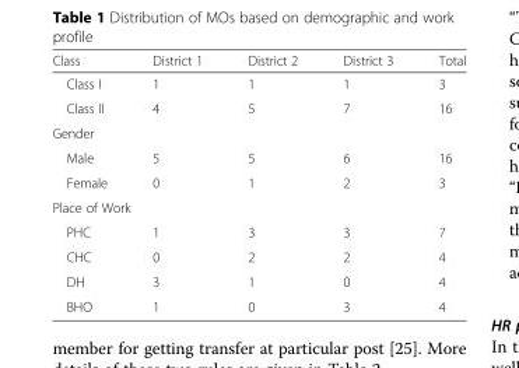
<table><thead><tr><td>Class</td><td>District 1</td><td>District 2</td><td>District 3</td><td>Total</td></tr></thead><tbody><tr><td>Class I</td><td>1</td><td>1</td><td>1</td><td>3</td></tr><tr><td>Class II</td><td>4</td><td>5</td><td>7</td><td>16</td></tr><tr><td colspan="5">Gender</td></tr><tr><td>Male</td><td>5</td><td>5</td><td>6</td><td>16</td></tr><tr><td>Female</td><td>0</td><td>1</td><td>2</td><td>3</td></tr><tr><td colspan="5">Place of Work</td></tr><tr><td>PHC</td><td>1</td><td>3</td><td>3</td><td>7</td></tr><tr><td>CHC</td><td>0</td><td>2</td><td>2</td><td>4</td></tr><tr><td>DH</td><td>3</td><td>1</td><td>0</td><td>4</td></tr><tr><td>BHO</td><td>1</td><td>0</td><td>3</td><td>4</td></tr></tbody></table>